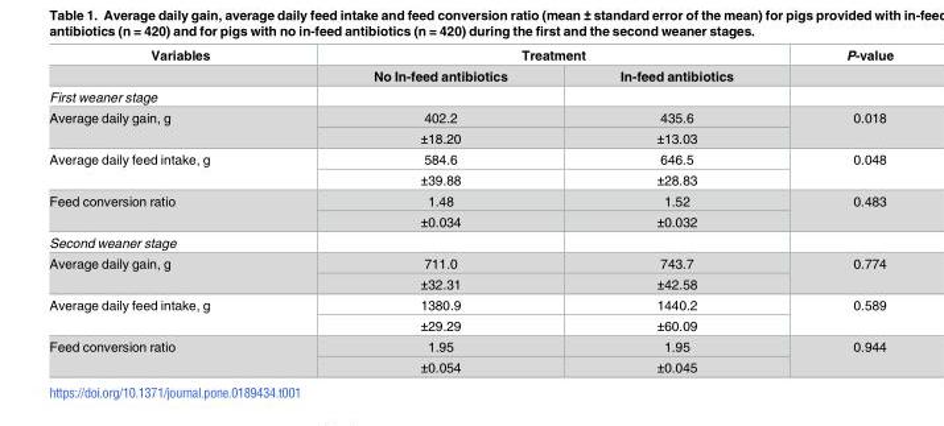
<table><thead><tr><td rowspan="2">Variables</td><td colspan="2">Treatment</td><td rowspan="2">P-value</td></tr><tr><td>No In-feed antibiotics</td><td>In-feed antibiotics</td></tr></thead><tbody><tr><td colspan="4">First weaner stage</td></tr><tr><td rowspan="2">Average daily gain, g</td><td>402.2</td><td>435.6</td><td rowspan="2">0.018</td></tr><tr><td>±18.20</td><td>±13.03</td></tr><tr><td rowspan="2">Average daily feed intake, g</td><td>584.6</td><td>646.5</td><td rowspan="2">0.048</td></tr><tr><td>±39.88</td><td>±28.83</td></tr><tr><td rowspan="2">Feed conversion ratio</td><td>1.48</td><td>1.52</td><td rowspan="2">0.483</td></tr><tr><td>±0.034</td><td>±0.032</td></tr><tr><td colspan="4">Second weaner stage</td></tr><tr><td rowspan="2">Average daily gain, g</td><td>711.0</td><td>743.7</td><td rowspan="2">0.774</td></tr><tr><td>±32.31</td><td>±42.58</td></tr><tr><td rowspan="2">Average daily feed intake, g</td><td>1380.9</td><td>1440.2</td><td rowspan="2">0.589</td></tr><tr><td>±29.29</td><td>±60.09</td></tr><tr><td rowspan="2">Feed conversion ratio</td><td>1.95</td><td>1.95</td><td rowspan="2">0.944</td></tr><tr><td>±0.054</td><td>±0.045</td></tr></tbody></table>